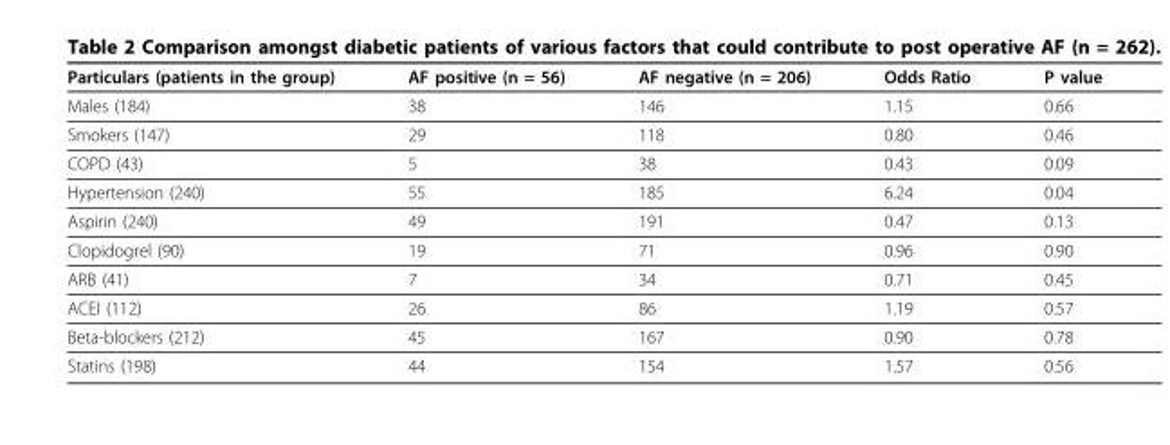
<table><thead><tr><td>Particulars (patients in the group)</td><td>AF positive (n = 56)</td><td>AF negative (n = 206)</td><td>Odds Ratio</td><td>P value</td></tr></thead><tbody><tr><td>Males (184)</td><td>38</td><td>146</td><td>1.15</td><td>0.66</td></tr><tr><td>Smokers (147)</td><td>29</td><td>118</td><td>0.80</td><td>0.46</td></tr><tr><td>COPD (43)</td><td>5</td><td>38</td><td>0.43</td><td>0.09</td></tr><tr><td>Hypertension (240)</td><td>55</td><td>185</td><td>6.24</td><td>0.04</td></tr><tr><td>Aspirin (240)</td><td>49</td><td>191</td><td>0.47</td><td>0.13</td></tr><tr><td>Clopidogrel (90)</td><td>19</td><td>71</td><td>0.96</td><td>0.90</td></tr><tr><td>ARB (41)</td><td>7</td><td>34</td><td>0.71</td><td>0.45</td></tr><tr><td>ACEI (112)</td><td>26</td><td>86</td><td>1.19</td><td>0.57</td></tr><tr><td>Beta-blockers (212)</td><td>45</td><td>167</td><td>0.90</td><td>0.78</td></tr><tr><td>Statins (198)</td><td>44</td><td>154</td><td>1.57</td><td>0.56</td></tr></tbody></table>